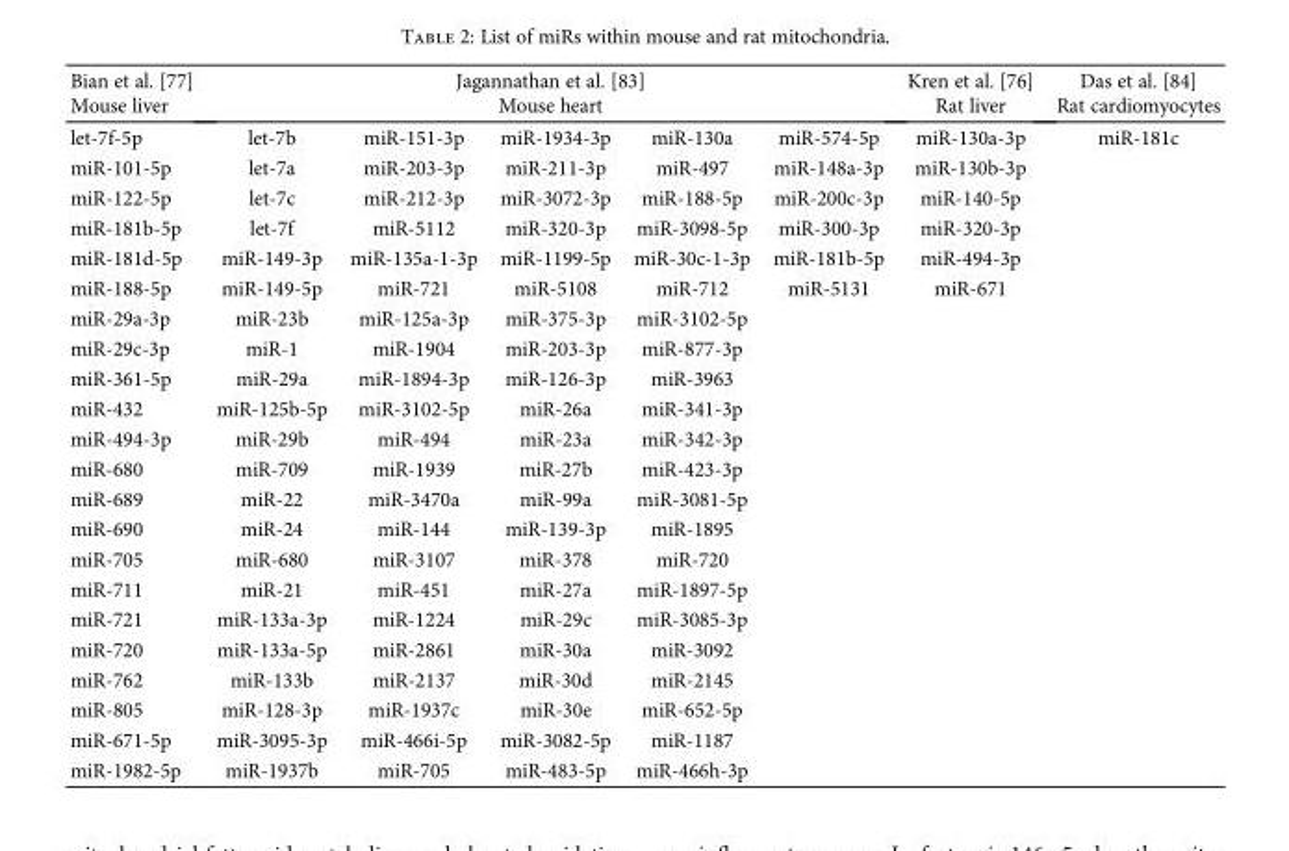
<table><thead><tr><td rowspan="3">Bian et al. [77] Mouse liver let-7f-5p</td><td rowspan="2" colspan="5">Jagannathan et al. [83] Mouse heart</td><td rowspan="3">Kren et al. [76] Rat liver miR-130a-3p</td><td rowspan="3">Das et al. [84] Rat cardiomyocytes miR-181c</td></tr><tr></tr><tr><td>let-7b</td><td>miR-151-3p</td><td>miR-1934-3p</td><td>miR-130a</td><td>miR-574-5p</td></tr></thead><tbody><tr><td>miR-101-5p</td><td>let-7a</td><td>miR-203-3p</td><td>miR-211-3p</td><td>miR-497</td><td>miR-148a-3p</td><td>miR-130b-3p</td><td></td></tr><tr><td>miR-122-5p</td><td>let-7c</td><td>miR-212-3p</td><td>miR-3072-3p</td><td>miR-188-5p</td><td>miR-200c-3p</td><td>miR-140-5p</td><td></td></tr><tr><td>miR-181b-5p</td><td>let-7f</td><td>miR-5112</td><td>miR-320-3p</td><td>miR-3098-5p</td><td>miR-300-3p</td><td>miR-320-3p</td><td></td></tr><tr><td>miR-181d-5p</td><td>miR-149-3p</td><td>miR-135a-1-3p</td><td>miR-1199-5p</td><td>miR-30c-1-3p</td><td>miR-181b-5p</td><td>miR-494-3p</td><td></td></tr><tr><td>miR-188-5p</td><td>miR-149-5p</td><td>miR-721</td><td>miR-5108</td><td>miR-712</td><td>miR-5131</td><td>miR-671</td><td></td></tr><tr><td>miR-29a-3p</td><td>miR-23b</td><td>miR-125a-3p</td><td>miR-375-3p</td><td>miR-3102-5p</td><td></td><td></td><td></td></tr><tr><td>miR-29c-3p</td><td>miR-1</td><td>miR-1904</td><td>miR-203-3p</td><td>miR-877-3p</td><td></td><td></td><td></td></tr><tr><td>miR-361-5p</td><td>miR-29a</td><td>miR-1894-3p</td><td>miR-126-3p</td><td>miR-3963</td><td></td><td></td><td></td></tr><tr><td>miR-432</td><td>miR-125b-5p</td><td>miR-3102-5p</td><td>miR-26a</td><td>miR-341-3p</td><td></td><td></td><td></td></tr><tr><td>miR-494-3p</td><td>miR-29b</td><td>miR-494</td><td>miR-23a</td><td>miR-342-3p</td><td></td><td></td><td></td></tr><tr><td>miR-680</td><td>miR-709</td><td>miR-1939</td><td>miR-27b</td><td>miR-423-3p</td><td></td><td></td><td></td></tr><tr><td>miR-689</td><td>miR-22</td><td>miR-3470a</td><td>miR-99a</td><td>miR-3081-5p</td><td></td><td></td><td></td></tr><tr><td>miR-690</td><td>miR-24</td><td>miR-144</td><td>miR-139-3p</td><td>miR-1895</td><td></td><td></td><td></td></tr><tr><td>miR-705</td><td>miR-680</td><td>miR-3107</td><td>miR-378</td><td>miR-720</td><td></td><td></td><td></td></tr><tr><td>miR-711</td><td>miR-21</td><td>miR-451</td><td>miR-27a</td><td>miR-1897-5p</td><td></td><td></td><td></td></tr><tr><td>miR-721</td><td>miR-133a-3p</td><td>miR-1224</td><td>miR-29c</td><td>miR-3085-3p</td><td></td><td></td><td></td></tr><tr><td>miR-720</td><td>miR-133a-5p</td><td>miR-2861</td><td>miR-30a</td><td>miR-3092</td><td></td><td></td><td></td></tr><tr><td>miR-762</td><td>miR-133b</td><td>miR-2137</td><td>miR-30d</td><td>miR-2145</td><td></td><td></td><td></td></tr><tr><td>miR-805</td><td>miR-128-3p</td><td>miR-1937c</td><td>miR-30e</td><td>miR-652-5p</td><td></td><td></td><td></td></tr><tr><td>miR-671-5p</td><td>miR-3095-3p</td><td>miR-466i-5p</td><td>miR-3082-5p</td><td>miR-1187</td><td></td><td></td><td></td></tr><tr><td>miR-1982-5p</td><td>miR-1937b</td><td>miR-705</td><td>miR-483-5p</td><td>miR-466h-3p</td><td></td><td></td><td></td></tr></tbody></table>